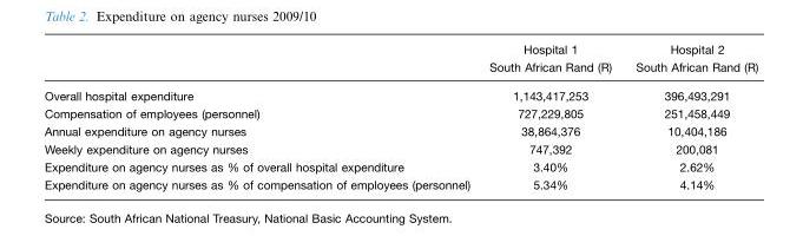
<table><thead><tr><td></td><td>Hospital 1 South African Rand (R)</td><td>Hospital 2 South African Rand (R)</td></tr></thead><tbody><tr><td>Overall hospital expenditure</td><td>1,143,417,253</td><td>396,493,291</td></tr><tr><td>Compensation of employees (personnel)</td><td>727,229,805</td><td>251,458,449</td></tr><tr><td>Annual expenditure on agency nurses</td><td>38,864,376</td><td>10,404,186</td></tr><tr><td>Weekly expenditure on agency nurses</td><td>747,392</td><td>200,081</td></tr><tr><td>Expenditure on agency nurses as % of overall hospital expenditure</td><td>3.40%</td><td>2.62%</td></tr><tr><td>Expenditure on agency nurses as % of compensation of employees (personnel)</td><td>5.34%</td><td>4.14%</td></tr></tbody></table>